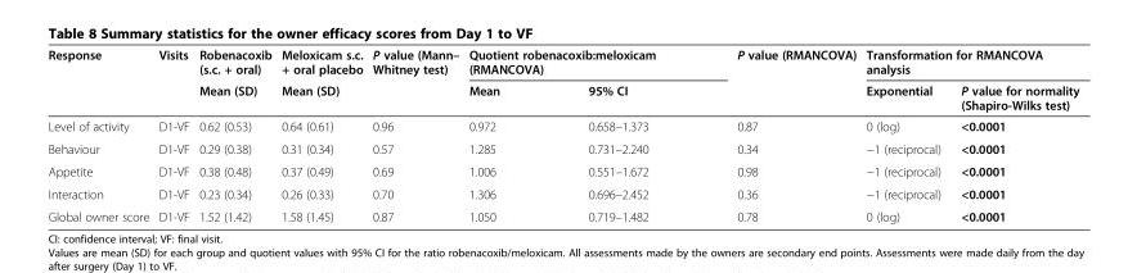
<table><thead><tr><td rowspan="2">Response</td><td rowspan="2">Visits</td><td rowspan="2">Robenacoxib (s.c. + oral) Mean (SD)</td><td rowspan="2">Meloxicam s.c. + oral placebo Mean (SD)</td><td rowspan="2">P value (Mann– Whitney test)</td><td colspan="2">Quotient robenacoxib:meloxicam (RMANCOVA)</td><td rowspan="2">P value (RMANCOVA)</td><td colspan="2">Transformation for RMANCOVA analysis</td></tr><tr><td>Mean</td><td>95% CI</td><td>Exponential</td><td>P value for normality (Shapiro-Wilks test)</td></tr></thead><tbody><tr><td>Level of activity</td><td>D1-VF</td><td>0.62 (0.53)</td><td>0.64 (0.61)</td><td>0.96</td><td>0.972</td><td>0.658–1.373</td><td>0.87</td><td>0 (log)</td><td>&lt;0.0001</td></tr><tr><td>Behaviour</td><td>D1-VF</td><td>0.29 (0.38)</td><td>0.31 (0.34)</td><td>0.57</td><td>1.285</td><td>0.731–2.240</td><td>0.34</td><td>−1 (reciprocal)</td><td>&lt;0.0001</td></tr><tr><td>Appetite</td><td>D1-VF</td><td>0.38 (0.48)</td><td>0.37 (0.49)</td><td>0.69</td><td>1.006</td><td>0.551–1.672</td><td>0.98</td><td>−1 (reciprocal)</td><td>&lt;0.0001</td></tr><tr><td>Interaction</td><td>D1-VF</td><td>0.23 (0.34)</td><td>0.26 (0.33)</td><td>0.70</td><td>1.306</td><td>0.696–2.452</td><td>0.36</td><td>−1 (reciprocal)</td><td>&lt;0.0001</td></tr><tr><td>Global owner score</td><td>D1-VF</td><td>1.52 (1.42)</td><td>1.58 (1.45)</td><td>0.87</td><td>1.050</td><td>0.719–1.482</td><td>0.78</td><td>0 (log)</td><td>&lt;0.0001</td></tr></tbody></table>